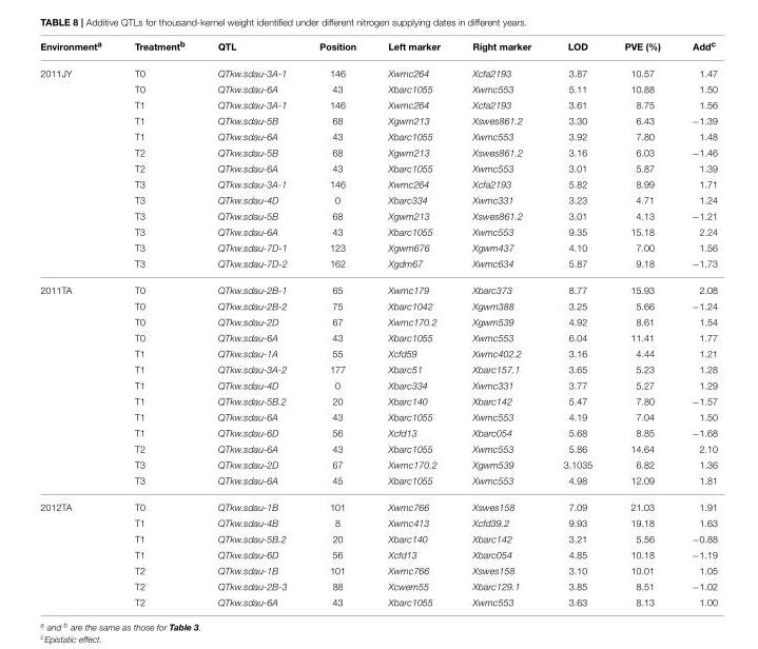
<table><thead><tr><td>Environment<sup>a</sup></td><td>Treatment<sup>b</sup></td><td>QTL</td><td>Position</td><td>Left marker</td><td>Right marker</td><td>LOD</td><td>PVE (%)</td><td>Add<sup>c</sup></td></tr></thead><tbody><tr><td rowspan="13">2011JY</td><td>T0</td><td>QTkw.sdau-3A-1</td><td>146</td><td>Xwmc264</td><td>Xcfa2193</td><td>3.87</td><td>10.57</td><td>1.47</td></tr><tr><td>T0</td><td>QTkw.sdau-6A</td><td>43</td><td>Xbarc1055</td><td>Xwmc553</td><td>5.11</td><td>10.88</td><td>1.50</td></tr><tr><td>T1</td><td>QTkw.sdau-3A-1</td><td>146</td><td>Xwmc264</td><td>Xcfa2193</td><td>3.61</td><td>8.75</td><td>1.56</td></tr><tr><td>T1</td><td>QTkw.sdau-5B</td><td>68</td><td>Xgwm213</td><td>Xswes861.2</td><td>3.30</td><td>6.43</td><td>−1.39</td></tr><tr><td>T1</td><td>QTkw.sdau-6A</td><td>43</td><td>Xbarc1055</td><td>Xwmc553</td><td>3.92</td><td>7.80</td><td>1.48</td></tr><tr><td>T2</td><td>QTkw.sdau-5B</td><td>68</td><td>Xgwm213</td><td>Xswes861.2</td><td>3.16</td><td>6.03</td><td>−1.46</td></tr><tr><td>T2</td><td>QTkw.sdau-6A</td><td>43</td><td>Xbarc1055</td><td>Xwmc553</td><td>3.01</td><td>5.87</td><td>1.39</td></tr><tr><td>T3</td><td>QTkw.sdau-3A-1</td><td>146</td><td>Xwmc264</td><td>Xcfa2193</td><td>5.82</td><td>8.99</td><td>1.71</td></tr><tr><td>T3</td><td>QTkw.sdau-4D</td><td>0</td><td>Xbarc334</td><td>Xwmc331</td><td>3.23</td><td>4.71</td><td>1.24</td></tr><tr><td>T3</td><td>QTkw.sdau-5B</td><td>68</td><td>Xgwm213</td><td>Xswes861.2</td><td>3.01</td><td>4.13</td><td>−1.21</td></tr><tr><td>T3</td><td>QTkw.sdau-6A</td><td>43</td><td>Xbarc1055</td><td>Xwmc553</td><td>9.35</td><td>15.18</td><td>2.24</td></tr><tr><td>T3</td><td>QTkw.sdau-7D-1</td><td>123</td><td>Xgwm676</td><td>Xgwm437</td><td>4.10</td><td>7.00</td><td>1.56</td></tr><tr><td>T3</td><td>QTkw.sdau-7D-2</td><td>162</td><td>Xgdm67</td><td>Xwmc634</td><td>5.87</td><td>9.18</td><td>−1.73</td></tr><tr><td rowspan="13">2011TA</td><td>T0</td><td>QTkw.sdau-2B-1</td><td>65</td><td>Xwmc179</td><td>Xbarc373</td><td>8.77</td><td>15.93</td><td>2.08</td></tr><tr><td>T0</td><td>QTkw.sdau-2B-2</td><td>75</td><td>Xbarc1042</td><td>Xgwm388</td><td>3.25</td><td>5.66</td><td>−1.24</td></tr><tr><td>T0</td><td>QTkw.sdau-2D</td><td>67</td><td>Xwmc170.2</td><td>Xgwm539</td><td>4.92</td><td>8.61</td><td>1.54</td></tr><tr><td>T0</td><td>QTkw.sdau-6A</td><td>43</td><td>Xbarc1055</td><td>Xwmc553</td><td>6.04</td><td>11.41</td><td>1.77</td></tr><tr><td>T1</td><td>QTkw.sdau-1A</td><td>55</td><td>Xcfd59</td><td>Xwmc402.2</td><td>3.16</td><td>4.44</td><td>1.21</td></tr><tr><td>T1</td><td>QTkw.sdau-3A-2</td><td>177</td><td>Xbarc51</td><td>Xbarc157.1</td><td>3.65</td><td>5.23</td><td>1.28</td></tr><tr><td>T1</td><td>QTkw.sdau-4D</td><td>0</td><td>Xbarc334</td><td>Xwmc331</td><td>3.77</td><td>5.27</td><td>1.29</td></tr><tr><td>T1</td><td>QTkw.sdau-5B.2</td><td>20</td><td>Xbarc140</td><td>Xbarc142</td><td>5.47</td><td>7.80</td><td>−1.57</td></tr><tr><td>T1</td><td>QTkw.sdau-6A</td><td>43</td><td>Xbarc1055</td><td>Xwmc553</td><td>4.19</td><td>7.04</td><td>1.50</td></tr><tr><td>T1</td><td>QTkw.sdau-6D</td><td>56</td><td>Xcfd13</td><td>Xbarc054</td><td>5.68</td><td>8.85</td><td>−1.68</td></tr><tr><td>T2</td><td>QTkw.sdau-6A</td><td>43</td><td>Xbarc1055</td><td>Xwmc553</td><td>5.86</td><td>14.64</td><td>2.10</td></tr><tr><td>T3</td><td>QTkw.sdau-2D</td><td>67</td><td>Xwmc170.2</td><td>Xgwm539</td><td>3.1035</td><td>6.82</td><td>1.36</td></tr><tr><td>T3</td><td>QTkw.sdau-6A</td><td>45</td><td>Xbarc1055</td><td>Xwmc553</td><td>4.98</td><td>12.09</td><td>1.81</td></tr><tr><td rowspan="7">2012TA</td><td>T0</td><td>QTkw.sdau-1B</td><td>101</td><td>Xwmc766</td><td>Xswes158</td><td>7.09</td><td>21.03</td><td>1.91</td></tr><tr><td>T1</td><td>QTkw.sdau-4B</td><td>8</td><td>Xwmc413</td><td>Xcfd39.2</td><td>9.93</td><td>19.18</td><td>1.63</td></tr><tr><td>T1</td><td>QTkw.sdau-5B.2</td><td>20</td><td>Xbarc140</td><td>Xbarc142</td><td>3.21</td><td>5.56</td><td>−0.88</td></tr><tr><td>T1</td><td>QTkw.sdau-6D</td><td>56</td><td>Xcfd13</td><td>Xbarc054</td><td>4.85</td><td>10.18</td><td>−1.19</td></tr><tr><td>T2</td><td>QTkw.sdau-1B</td><td>101</td><td>Xwmc766</td><td>Xswes158</td><td>3.10</td><td>10.01</td><td>1.05</td></tr><tr><td>T2</td><td>QTkw.sdau-2B-3</td><td>88</td><td>Xcwem55</td><td>Xbarc129.1</td><td>3.85</td><td>8.51</td><td>−1.02</td></tr><tr><td>T2</td><td>QTkw.sdau-6A</td><td>43</td><td>Xbarc1055</td><td>Xwmc553</td><td>3.63</td><td>8.13</td><td>1.00</td></tr></tbody></table>